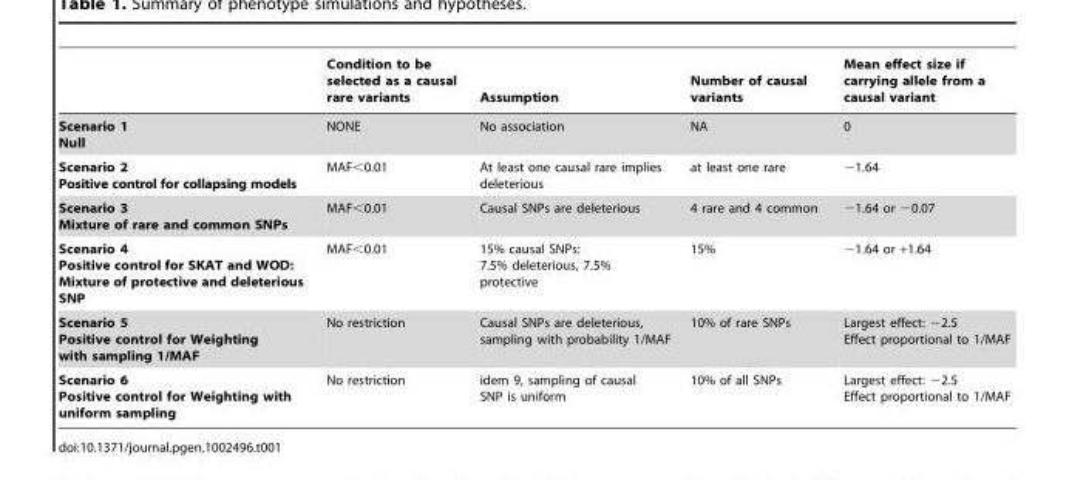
<table><thead><tr><td></td><td>Condition to be selected as a causal rare variants</td><td>Assumption</td><td>Number of causal variants</td><td>Mean effect size if carrying allele from a causal variant</td></tr></thead><tbody><tr><td>Scenario 1 Null</td><td>NONE</td><td>No association</td><td>NA</td><td>0</td></tr><tr><td>Scenario 2 Positive control for collapsing models</td><td>MAF&lt;0.01</td><td>At least one causal rare implies deleterious</td><td>at least one rare</td><td>−1.64</td></tr><tr><td>Scenario 3 Mixture of rare and common SNPs</td><td>MAF&lt;0.01</td><td>Causal SNPs are deleterious</td><td>4 rare and 4 common</td><td>−1.64 or −0.07</td></tr><tr><td>Scenario 4 Positive control for SKAT and WOD: Mixture of protective and deleterious SNP</td><td>MAF&lt;0.01</td><td>15% causal SNPs: 7.5% deleterious, 7.5% protective</td><td>15%</td><td>−1.64 or +1.64</td></tr><tr><td>Scenario 5 Positive control for Weighting with sampling 1/MAF</td><td>No restriction</td><td>Causal SNPs are deleterious, sampling with probability 1/MAF</td><td>10% of rare SNPs</td><td>Largest effect: −2.5 Effect proportional to 1/MAF</td></tr><tr><td>Scenario 6 Positive control for Weighting with uniform sampling</td><td>No restriction</td><td>idem 9, sampling of causal SNP is uniform</td><td>10% of all SNPs</td><td>Largest effect: −2.5 Effect proportional to 1/MAF</td></tr></tbody></table>